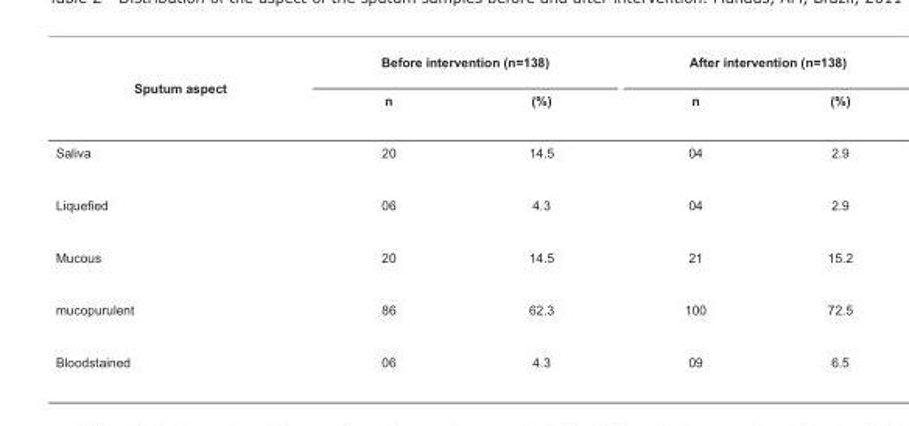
<table><tbody><tr><td rowspan="2">Sputum aspect</td><td colspan="2">Before intervention (n=138)</td><td colspan="2">After intervention (n=138)</td></tr><tr><td>n</td><td>(%)</td><td>n</td><td>(%)</td></tr><tr><td>Saliva</td><td>20</td><td>14.5</td><td>04</td><td>2.9</td></tr><tr><td>Liquefied</td><td>06</td><td>4.3</td><td>04</td><td>2.9</td></tr><tr><td>Mucous</td><td>20</td><td>14.5</td><td>21</td><td>15.2</td></tr><tr><td>mucopurulent</td><td>86</td><td>62.3</td><td>100</td><td>72.5</td></tr><tr><td>Bloodstained</td><td>06</td><td>4.3</td><td>09</td><td>6.5</td></tr></tbody></table>